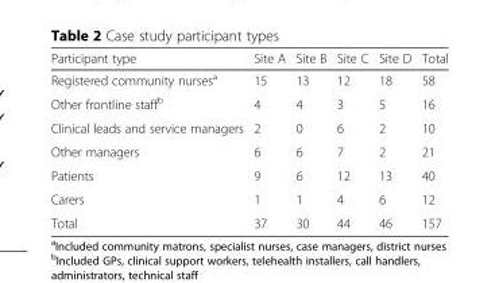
<table><thead><tr><td>Participant type</td><td>Site A</td><td>Site B</td><td>Site C</td><td>Site D</td><td>Total</td></tr></thead><tbody><tr><td>Registered community nurses<sup>a</sup></td><td>15</td><td>13</td><td>12</td><td>18</td><td>58</td></tr><tr><td>Other frontline staff<sup>b</sup></td><td>4</td><td>4</td><td>3</td><td>5</td><td>16</td></tr><tr><td>Clinical leads and service managers</td><td>2</td><td>0</td><td>6</td><td>2</td><td>10</td></tr><tr><td>Other managers</td><td>6</td><td>6</td><td>7</td><td>2</td><td>21</td></tr><tr><td>Patients</td><td>9</td><td>6</td><td>12</td><td>13</td><td>40</td></tr><tr><td>Carers</td><td>1</td><td>1</td><td>4</td><td>6</td><td>12</td></tr><tr><td>Total</td><td>37</td><td>30</td><td>44</td><td>46</td><td>157</td></tr></tbody></table>